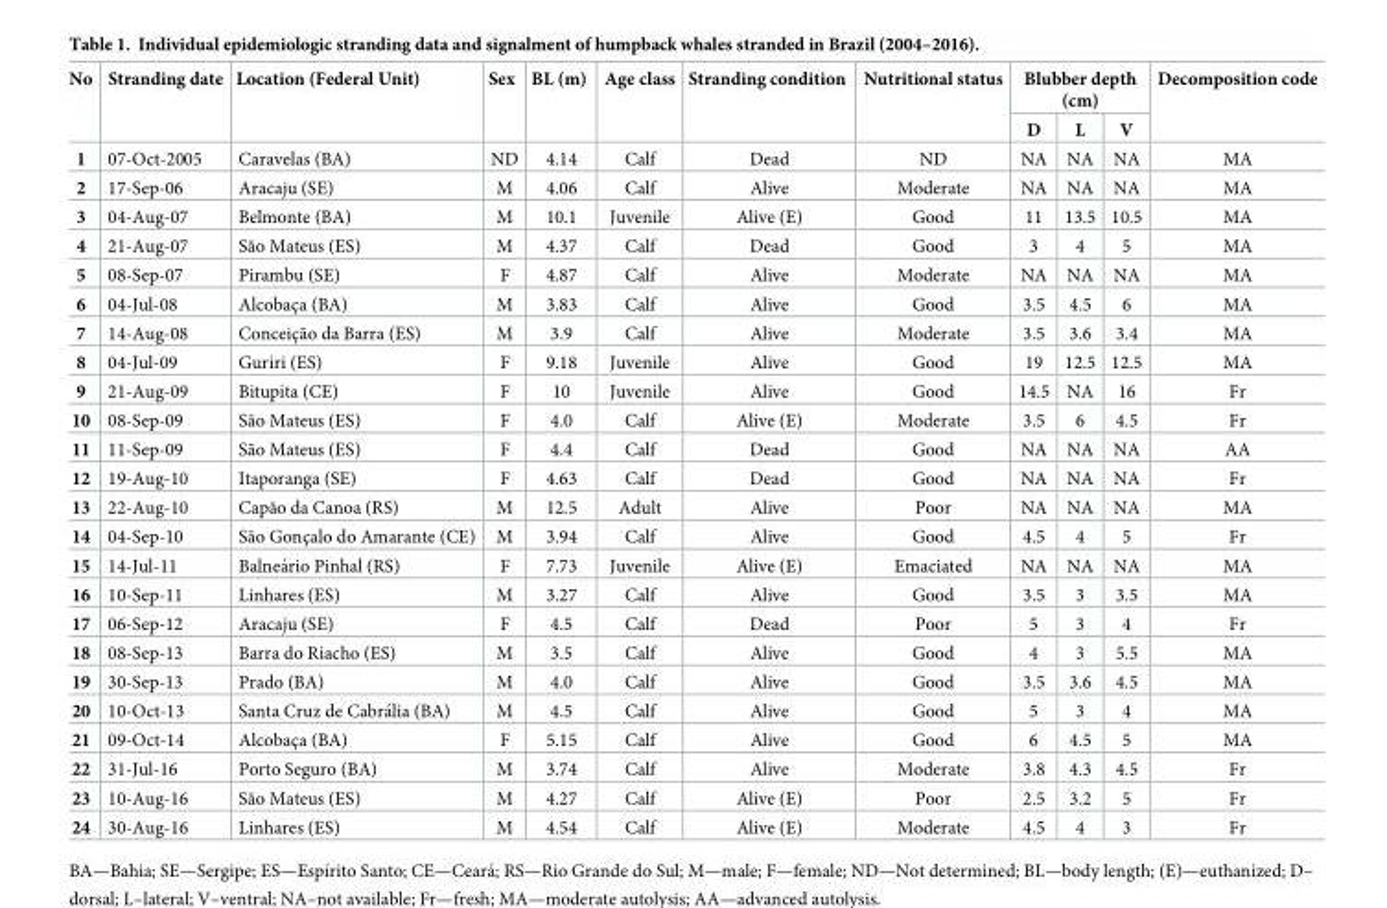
<table><thead><tr><td rowspan="2">No</td><td rowspan="2">Stranding date</td><td rowspan="2">Location (Federal Unit)</td><td rowspan="2">Sex</td><td rowspan="2">BL (m)</td><td rowspan="2">Age class</td><td rowspan="2">Stranding condition</td><td rowspan="2">Nutritional status</td><td colspan="3">Blubber depth (cm)</td><td rowspan="2">Decomposition code</td></tr><tr><td>D</td><td>L</td><td>V</td></tr></thead><tbody><tr><td>1</td><td>07-Oct-2005</td><td>Caravelas (BA)</td><td>ND</td><td>4.14</td><td>Calf</td><td>Dead</td><td>ND</td><td>NA</td><td>NA</td><td>NA</td><td>MA</td></tr><tr><td>2</td><td>17-Sep-06</td><td>Aracaju (SE)</td><td>M</td><td>4.06</td><td>Calf</td><td>Alive</td><td>Moderate</td><td>NA</td><td>NA</td><td>NA</td><td>MA</td></tr><tr><td>3</td><td>04-Aug-07</td><td>Belmonte (BA)</td><td>M</td><td>10.1</td><td>Juvenile</td><td>Alive (E)</td><td>Good</td><td>11</td><td>13.5</td><td>10.5</td><td>MA</td></tr><tr><td>4</td><td>21-Aug-07</td><td>São Mateus (ES)</td><td>M</td><td>4.37</td><td>Calf</td><td>Dead</td><td>Good</td><td>3</td><td>4</td><td>5</td><td>MA</td></tr><tr><td>5</td><td>08-Sep-07</td><td>Pirambu (SE)</td><td>F</td><td>4.87</td><td>Calf</td><td>Alive</td><td>Moderate</td><td>NA</td><td>NA</td><td>NA</td><td>MA</td></tr><tr><td>6</td><td>04-Jul-08</td><td>Alcobac¸a (BA)</td><td>M</td><td>3.83</td><td>Calf</td><td>Alive</td><td>Good</td><td>3.5</td><td>4.5</td><td>6</td><td>MA</td></tr><tr><td>7</td><td>14-Aug-08</td><td>Conceic¸ão da Barra (ES)</td><td>M</td><td>3.9</td><td>Calf</td><td>Alive</td><td>Moderate</td><td>3.5</td><td>3.6</td><td>3.4</td><td>MA</td></tr><tr><td>8</td><td>04-Jul-09</td><td>Guriri (ES)</td><td>F</td><td>9.18</td><td>Juvenile</td><td>Alive</td><td>Good</td><td>19</td><td>12.5</td><td>12.5</td><td>MA</td></tr><tr><td>9</td><td>21-Aug-09</td><td>Bitupita (CE)</td><td>F</td><td>10</td><td>Juvenile</td><td>Alive</td><td>Good</td><td>14.5</td><td>NA</td><td>16</td><td>Fr</td></tr><tr><td>10</td><td>08-Sep-09</td><td>São Mateus (ES)</td><td>F</td><td>4.0</td><td>Calf</td><td>Alive (E)</td><td>Moderate</td><td>3.5</td><td>6</td><td>4.5</td><td>Fr</td></tr><tr><td>11</td><td>11-Sep-09</td><td>São Mateus (ES)</td><td>F</td><td>4.4</td><td>Calf</td><td>Dead</td><td>Good</td><td>NA</td><td>NA</td><td>NA</td><td>AA</td></tr><tr><td>12</td><td>19-Aug-10</td><td>Itaporanga (SE)</td><td>F</td><td>4.63</td><td>Calf</td><td>Dead</td><td>Good</td><td>NA</td><td>NA</td><td>NA</td><td>Fr</td></tr><tr><td>13</td><td>22-Aug-10</td><td>Capão da Canoa (RS)</td><td>M</td><td>12.5</td><td>Adult</td><td>Alive</td><td>Poor</td><td>NA</td><td>NA</td><td>NA</td><td>MA</td></tr><tr><td>14</td><td>04-Sep-10</td><td>São Gonc¸alo do Amarante (CE)</td><td>M</td><td>3.94</td><td>Calf</td><td>Alive</td><td>Good</td><td>4.5</td><td>4</td><td>5</td><td>Fr</td></tr><tr><td>15</td><td>14-Jul-11</td><td>Balnea´rio Pinhal (RS)</td><td>F</td><td>7.73</td><td>Juvenile</td><td>Alive (E)</td><td>Emaciated</td><td>NA</td><td>NA</td><td>NA</td><td>MA</td></tr><tr><td>16</td><td>10-Sep-11</td><td>Linhares (ES)</td><td>M</td><td>3.27</td><td>Calf</td><td>Alive</td><td>Good</td><td>3.5</td><td>3</td><td>3.5</td><td>MA</td></tr><tr><td>17</td><td>06-Sep-12</td><td>Aracaju (SE)</td><td>F</td><td>4.5</td><td>Calf</td><td>Dead</td><td>Poor</td><td>5</td><td>3</td><td>4</td><td>Fr</td></tr><tr><td>18</td><td>08-Sep-13</td><td>Barra do Riacho (ES)</td><td>M</td><td>3.5</td><td>Calf</td><td>Alive</td><td>Good</td><td>4</td><td>3</td><td>5.5</td><td>MA</td></tr><tr><td>19</td><td>30-Sep-13</td><td>Prado (BA)</td><td>M</td><td>4.0</td><td>Calf</td><td>Alive</td><td>Good</td><td>3.5</td><td>3.6</td><td>4.5</td><td>MA</td></tr><tr><td>20</td><td>10-Oct-13</td><td>Santa Cruz de Cabra´lia (BA)</td><td>M</td><td>4.5</td><td>Calf</td><td>Alive</td><td>Good</td><td>5</td><td>3</td><td>4</td><td>MA</td></tr><tr><td>21</td><td>09-Oct-14</td><td>Alcobac¸a (BA)</td><td>F</td><td>5.15</td><td>Calf</td><td>Alive</td><td>Good</td><td>6</td><td>4.5</td><td>5</td><td>MA</td></tr><tr><td>22</td><td>31-Jul-16</td><td>Porto Seguro (BA)</td><td>M</td><td>3.74</td><td>Calf</td><td>Alive</td><td>Moderate</td><td>3.8</td><td>4.3</td><td>4.5</td><td>Fr</td></tr><tr><td>23</td><td>10-Aug-16</td><td>São Mateus (ES)</td><td>M</td><td>4.27</td><td>Calf</td><td>Alive (E)</td><td>Poor</td><td>2.5</td><td>3.2</td><td>5</td><td>Fr</td></tr><tr><td>24</td><td>30-Aug-16</td><td>Linhares (ES)</td><td>M</td><td>4.54</td><td>Calf</td><td>Alive (E)</td><td>Moderate</td><td>4.5</td><td>4</td><td>3</td><td>Fr</td></tr></tbody></table>